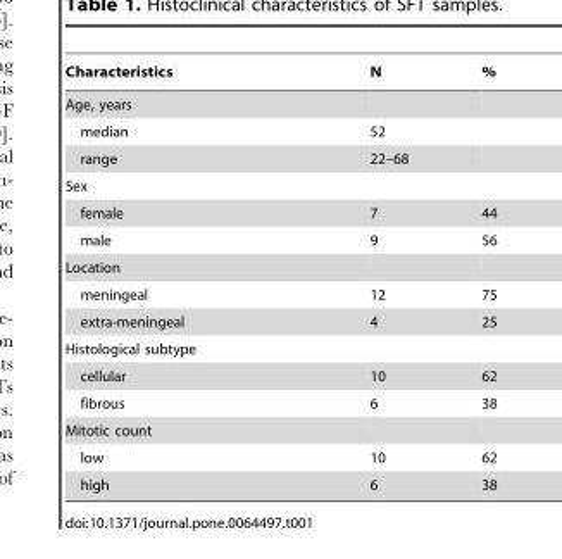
<table><thead><tr><td>Characteristics</td><td>N</td><td>%</td></tr></thead><tbody><tr><td colspan="3">Age, years</td></tr><tr><td>median</td><td>52</td><td></td></tr><tr><td>range</td><td>22–68</td><td></td></tr><tr><td colspan="3">Sex</td></tr><tr><td>female</td><td>7</td><td>44</td></tr><tr><td>male</td><td>9</td><td>56</td></tr><tr><td colspan="3">Location</td></tr><tr><td>meningeal</td><td>12</td><td>75</td></tr><tr><td>extra-meningeal</td><td>4</td><td>25</td></tr><tr><td colspan="3">Histological subtype</td></tr><tr><td>cellular</td><td>10</td><td>62</td></tr><tr><td>fibrous</td><td>6</td><td>38</td></tr><tr><td colspan="3">Mitotic count</td></tr><tr><td>low</td><td>10</td><td>62</td></tr><tr><td>high</td><td>6</td><td>38</td></tr></tbody></table>